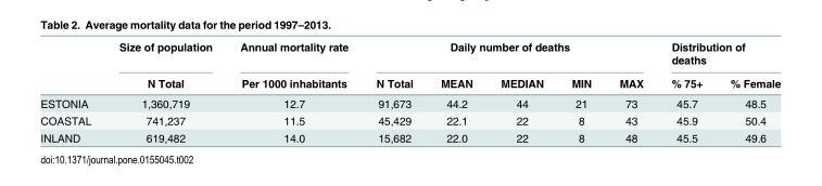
<table><thead><tr><td rowspan="2"></td><td rowspan="2">Size of population N Total</td><td rowspan="2">Annual mortality rate Per 1000 inhabitants</td><td colspan="5">Daily number of deaths</td><td colspan="2">Distribution of deaths</td></tr><tr><td>N Total</td><td>MEAN</td><td>MEDIAN</td><td>MIN</td><td>MAX</td><td>% 75+</td><td>% Female</td></tr></thead><tbody><tr><td>ESTONIA</td><td>1,360,719</td><td>12.7</td><td>91,673</td><td>44.2</td><td>44</td><td>21</td><td>73</td><td>45.7</td><td>48.5</td></tr><tr><td>COASTAL</td><td>741,237</td><td>11.5</td><td>45,429</td><td>22.1</td><td>22</td><td>8</td><td>43</td><td>45.9</td><td>50.4</td></tr><tr><td>INLAND</td><td>619,482</td><td>14.0</td><td>15,682</td><td>22.0</td><td>22</td><td>8</td><td>48</td><td>45.5</td><td>49.6</td></tr></tbody></table>